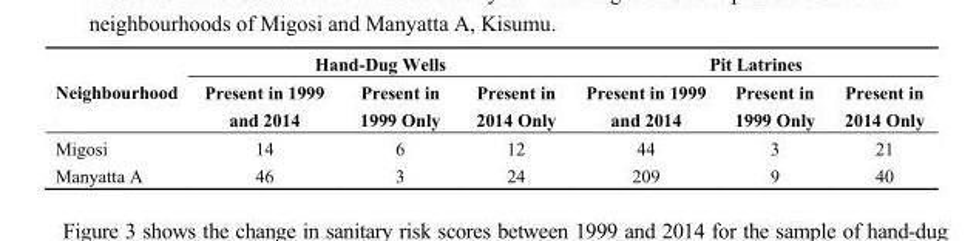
<table><thead><tr><td rowspan="2">Neighbourhood</td><td colspan="3">Hand-Dug Wells</td><td colspan="3">Pit Latrines</td></tr><tr><td>Present in 1999 and 2014</td><td>Present in 1999 Only</td><td>Present in 2014 Only</td><td>Present in 1999 and 2014</td><td>Present in 1999 Only</td><td>Present in 2014 Only</td></tr></thead><tbody><tr><td>Migosi</td><td>14</td><td>6</td><td>12</td><td>44</td><td>3</td><td>21</td></tr><tr><td>Manyatta A</td><td>46</td><td>3</td><td>24</td><td>209</td><td>9</td><td>40</td></tr></tbody></table>